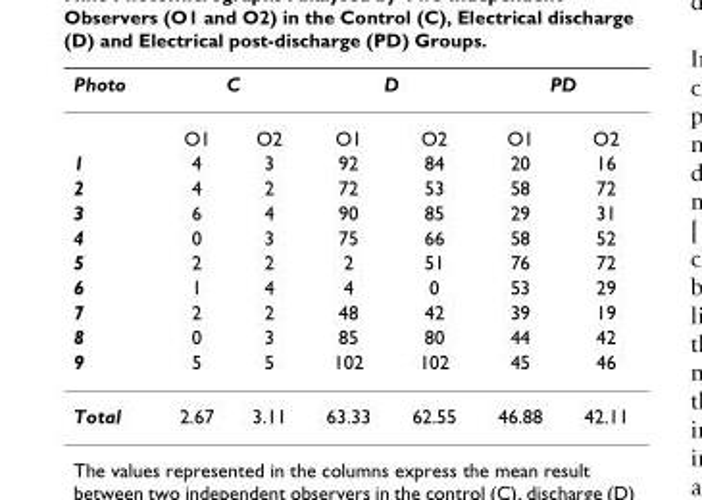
<table><thead><tr><td rowspan="2">Photo</td><td colspan="2">C</td><td colspan="2">D</td><td colspan="2">PD</td></tr><tr><td>O1</td><td>O2</td><td>O1</td><td>O2</td><td>O1</td><td>O2</td></tr></thead><tbody><tr><td>1</td><td>4</td><td>3</td><td>92</td><td>84</td><td>20</td><td>16</td></tr><tr><td>2</td><td>4</td><td>2</td><td>72</td><td>53</td><td>58</td><td>72</td></tr><tr><td>3</td><td>6</td><td>4</td><td>90</td><td>85</td><td>29</td><td>31</td></tr><tr><td>4</td><td>0</td><td>3</td><td>75</td><td>66</td><td>58</td><td>52</td></tr><tr><td>5</td><td>2</td><td>2</td><td>2</td><td>51</td><td>76</td><td>72</td></tr><tr><td>6</td><td>1</td><td>4</td><td>4</td><td>0</td><td>53</td><td>29</td></tr><tr><td>7</td><td>2</td><td>2</td><td>48</td><td>42</td><td>39</td><td>19</td></tr><tr><td>8</td><td>0</td><td>3</td><td>85</td><td>80</td><td>44</td><td>42</td></tr><tr><td>9</td><td>5</td><td>5</td><td>102</td><td>102</td><td>45</td><td>46</td></tr><tr><td>Total</td><td>2.67</td><td>3.11</td><td>63.33</td><td>62.55</td><td>46.88</td><td>42.11</td></tr></tbody></table>